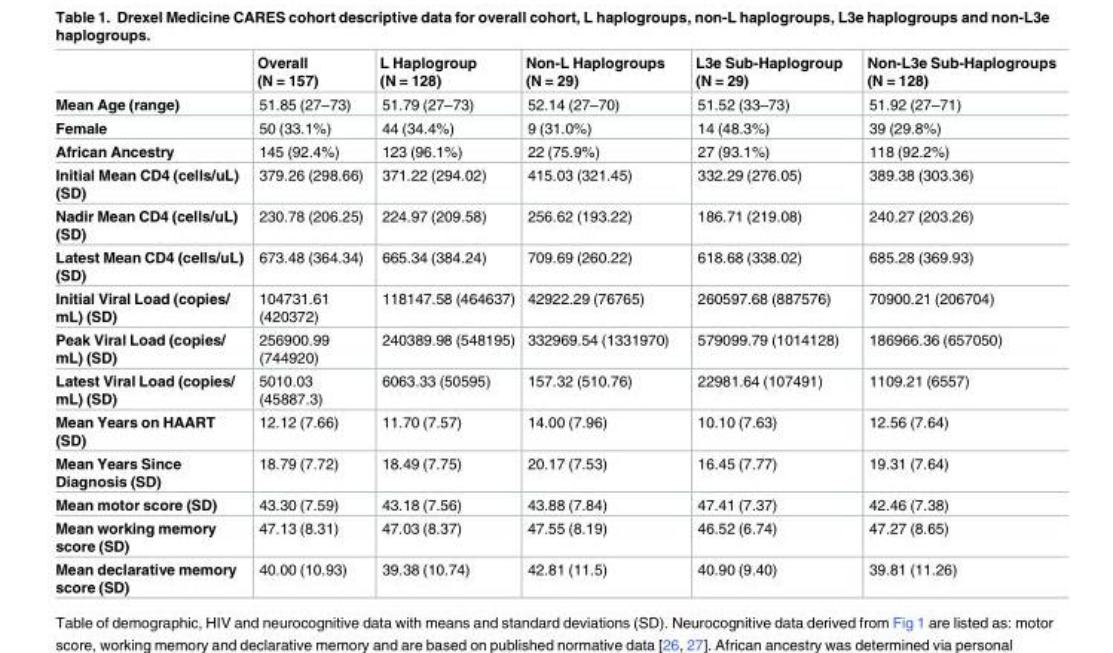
<table><thead><tr><td></td><td>Overall (N = 157)</td><td>L Haplogroup (N = 128)</td><td>Non-L Haplogroups (N = 29)</td><td>L3e Sub-Haplogroup (N = 29)</td><td>Non-L3e Sub-Haplogroups (N = 128)</td></tr></thead><tbody><tr><td>Mean Age (range)</td><td>51.85 (27–73)</td><td>51.79 (27–73)</td><td>52.14 (27–70)</td><td>51.52 (33–73)</td><td>51.92 (27–71)</td></tr><tr><td>Female</td><td>50 (33.1%)</td><td>44 (34.4%)</td><td>9 (31.0%)</td><td>14 (48.3%)</td><td>39 (29.8%)</td></tr><tr><td>African Ancestry</td><td>145 (92.4%)</td><td>123 (96.1%)</td><td>22 (75.9%)</td><td>27 (93.1%)</td><td>118 (92.2%)</td></tr><tr><td>Initial Mean CD4 (cells/uL) (SD)</td><td>379.26 (298.66)</td><td>371.22 (294.02)</td><td>415.03 (321.45)</td><td>332.29 (276.05)</td><td>389.38 (303.36)</td></tr><tr><td>Nadir Mean CD4 (cells/uL) (SD)</td><td>230.78 (206.25)</td><td>224.97 (209.58)</td><td>256.62 (193.22)</td><td>186.71 (219.08)</td><td>240.27 (203.26)</td></tr><tr><td>Latest Mean CD4 (cells/uL) (SD)</td><td>673.48 (364.34)</td><td>665.34 (384.24)</td><td>709.69 (260.22)</td><td>618.68 (338.02)</td><td>685.28 (369.93)</td></tr><tr><td>Initial Viral Load (copies/ mL) (SD)</td><td>104731.61 (420372)</td><td>118147.58 (464637)</td><td>42922.29 (76765)</td><td>260597.68 (887576)</td><td>70900.21 (206704)</td></tr><tr><td>Peak Viral Load (copies/ mL) (SD)</td><td>256900.99 (744920)</td><td>240389.98 (548195)</td><td>332969.54 (1331970)</td><td>579099.79 (1014128)</td><td>186966.36 (657050)</td></tr><tr><td>Latest Viral Load (copies/ mL) (SD)</td><td>5010.03 (45887.3)</td><td>6063.33 (50595)</td><td>157.32 (510.76)</td><td>22981.64 (107491)</td><td>1109.21 (6557)</td></tr><tr><td>Mean Years on HAART (SD)</td><td>12.12 (7.66)</td><td>11.70 (7.57)</td><td>14.00 (7.96)</td><td>10.10 (7.63)</td><td>12.56 (7.64)</td></tr><tr><td>Mean Years Since Diagnosis (SD)</td><td>18.79 (7.72)</td><td>18.49 (7.75)</td><td>20.17 (7.53)</td><td>16.45 (7.77)</td><td>19.31 (7.64)</td></tr><tr><td>Mean motor score (SD)</td><td>43.30 (7.59)</td><td>43.18 (7.56)</td><td>43.88 (7.84)</td><td>47.41 (7.37)</td><td>42.46 (7.38)</td></tr><tr><td>Mean working memory score (SD)</td><td>47.13 (8.31)</td><td>47.03 (8.37)</td><td>47.55 (8.19)</td><td>46.52 (6.74)</td><td>47.27 (8.65)</td></tr><tr><td>Mean declarative memory score (SD)</td><td>40.00 (10.93)</td><td>39.38 (10.74)</td><td>42.81 (11.5)</td><td>40.90 (9.40)</td><td>39.81 (11.26)</td></tr></tbody></table>